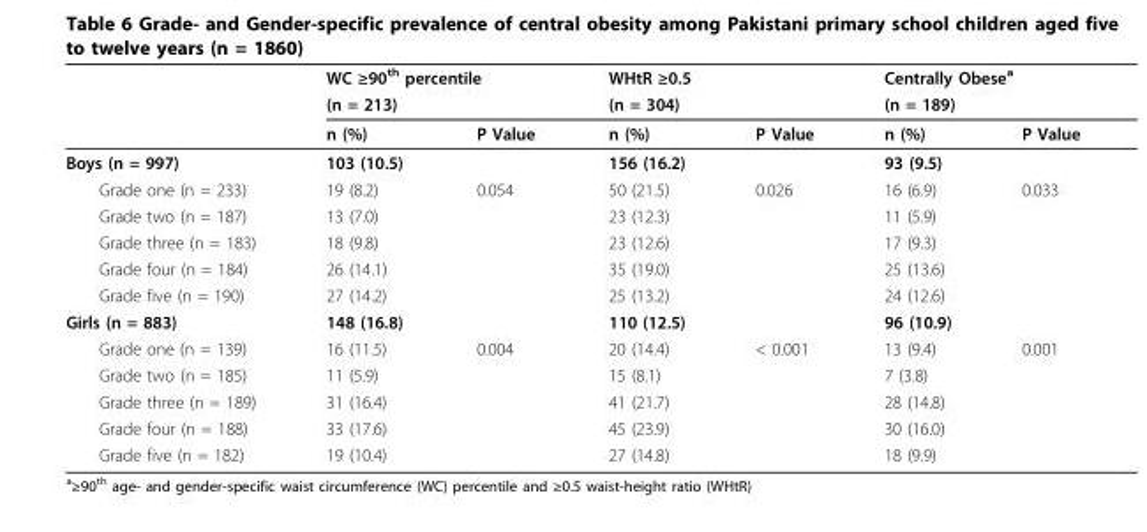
<table><thead><tr><td rowspan="3"></td><td rowspan="2" colspan="2">WC ≥90<sup>th</sup> percentile (n = 213)</td><td rowspan="2" colspan="2">WHtR ≥0.5 (n = 304)</td><td rowspan="2" colspan="2">Centrally Obese<sup>a</sup> (n = 189)</td></tr><tr></tr><tr><td>n (%)</td><td>P Value</td><td>n (%)</td><td>P Value</td><td>n (%)</td><td>P Value</td></tr></thead><tbody><tr><td>Boys (n = 997)</td><td>103 (10.5)</td><td></td><td>156 (16.2)</td><td></td><td>93 (9.5)</td><td></td></tr><tr><td>Grade one (n = 233)</td><td>19 (8.2)</td><td>0.054</td><td>50 (21.5)</td><td>0.026</td><td>16 (6.9)</td><td>0.033</td></tr><tr><td>Grade two (n = 187)</td><td>13 (7.0)</td><td></td><td>23 (12.3)</td><td></td><td>11 (5.9)</td><td></td></tr><tr><td>Grade three (n = 183)</td><td>18 (9.8)</td><td></td><td>23 (12.6)</td><td></td><td>17 (9.3)</td><td></td></tr><tr><td>Grade four (n = 184)</td><td>26 (14.1)</td><td></td><td>35 (19.0)</td><td></td><td>25 (13.6)</td><td></td></tr><tr><td>Grade five (n = 190)</td><td>27 (14.2)</td><td></td><td>25 (13.2)</td><td></td><td>24 (12.6)</td><td></td></tr><tr><td>Girls (n = 883)</td><td>148 (16.8)</td><td></td><td>110 (12.5)</td><td></td><td>96 (10.9)</td><td></td></tr><tr><td>Grade one (n = 139)</td><td>16 (11.5)</td><td>0.004</td><td>20 (14.4)</td><td>&lt; 0.001</td><td>13 (9.4)</td><td>0.001</td></tr><tr><td>Grade two (n = 185)</td><td>11 (5.9)</td><td></td><td>15 (8.1)</td><td></td><td>7 (3.8)</td><td></td></tr><tr><td>Grade three (n = 189)</td><td>31 (16.4)</td><td></td><td>41 (21.7)</td><td></td><td>28 (14.8)</td><td></td></tr><tr><td>Grade four (n = 188)</td><td>33 (17.6)</td><td></td><td>45 (23.9)</td><td></td><td>30 (16.0)</td><td></td></tr><tr><td>Grade five (n = 182)</td><td>19 (10.4)</td><td></td><td>27 (14.8)</td><td></td><td>18 (9.9)</td><td></td></tr></tbody></table>